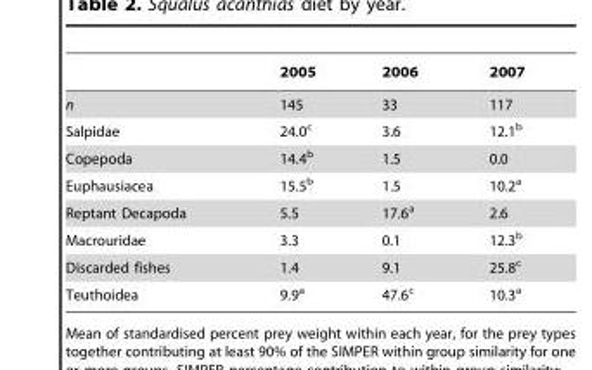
<table><thead><tr><td></td><td>2005</td><td>2006</td><td>2007</td></tr></thead><tbody><tr><td>n</td><td>145</td><td>33</td><td>117</td></tr><tr><td>Salpidae</td><td>24.0<sup>c</sup></td><td>3.6</td><td>12.1<sup>b</sup></td></tr><tr><td>Copepoda</td><td>14.4<sup>b</sup></td><td>1.5</td><td>0.0</td></tr><tr><td>Euphausiacea</td><td>15.5<sup>b</sup></td><td>1.5</td><td>10.2<sup>a</sup></td></tr><tr><td>Reptant Decapoda</td><td>5.5</td><td>17.6<sup>a</sup></td><td>2.6</td></tr><tr><td>Macrouridae</td><td>3.3</td><td>0.1</td><td>12.3<sup>b</sup></td></tr><tr><td>Discarded fishes</td><td>1.4</td><td>9.1</td><td>25.8<sup>c</sup></td></tr><tr><td>Teuthoidea</td><td>9.9<sup>a</sup></td><td>47.6<sup>c</sup></td><td>10.3<sup>a</sup></td></tr></tbody></table>